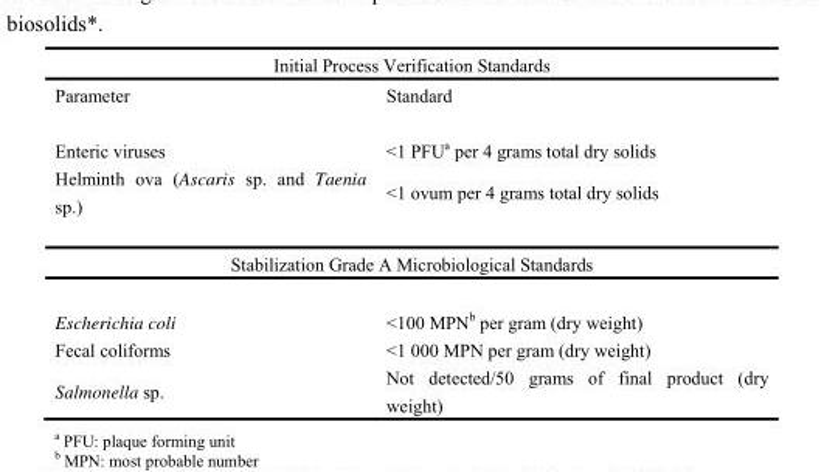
<table><tbody><tr><td colspan="2">Initial Process Verification Standards</td></tr><tr><td>Parameter</td><td>Standard</td></tr><tr><td>Enteric viruses</td><td>&lt;1 PFU<sup>a</sup> per 4 grams total dry solids</td></tr><tr><td>Helminth ova (Ascaris sp. and Taenia sp.)</td><td>&lt;1 ovum per 4 grams total dry solids</td></tr><tr><td colspan="2">Stabilization Grade A Microbiological Standards</td></tr><tr><td>Escherichia coli</td><td>&lt;100 MPN<sup>b</sup> per gram (dry weight)</td></tr><tr><td>Fecal coliforms</td><td>&lt;1 000 MPN per gram (dry weight)</td></tr><tr><td>Salmonella sp.</td><td>Not detected/50 grams of final product (dry weight)</td></tr></tbody></table>